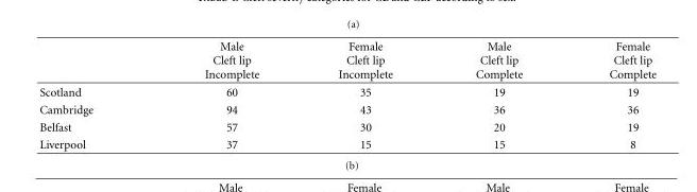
<table><thead><tr><td></td><td>Male Cleft lip Incomplete</td><td>Female Cleft lip Incomplete</td><td>Male Cleft lip Complete</td><td>Female Cleft lip Complete</td></tr></thead><tbody><tr><td>Scotland</td><td>60</td><td>35</td><td>19</td><td>19</td></tr><tr><td>Cambridge</td><td>94</td><td>43</td><td>36</td><td>36</td></tr><tr><td>Belfast</td><td>57</td><td>30</td><td>20</td><td>19</td></tr><tr><td>Liverpool</td><td>37</td><td>15</td><td>15</td><td>8</td></tr></tbody></table>